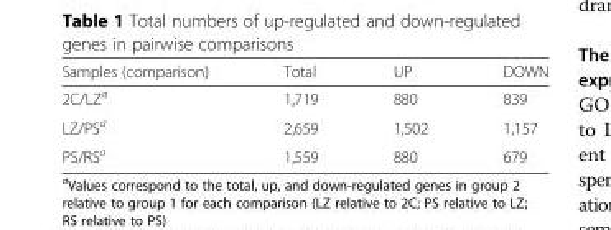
<table><thead><tr><td>Samples (comparison)</td><td>Total</td><td>UP</td><td>DOWN</td></tr></thead><tbody><tr><td>2C/LZ<sup>a</sup></td><td>1,719</td><td>880</td><td>839</td></tr><tr><td>LZ/PS<sup>a</sup></td><td>2,659</td><td>1,502</td><td>1,157</td></tr><tr><td>PS/RS<sup>a</sup></td><td>1,559</td><td>880</td><td>679</td></tr></tbody></table>